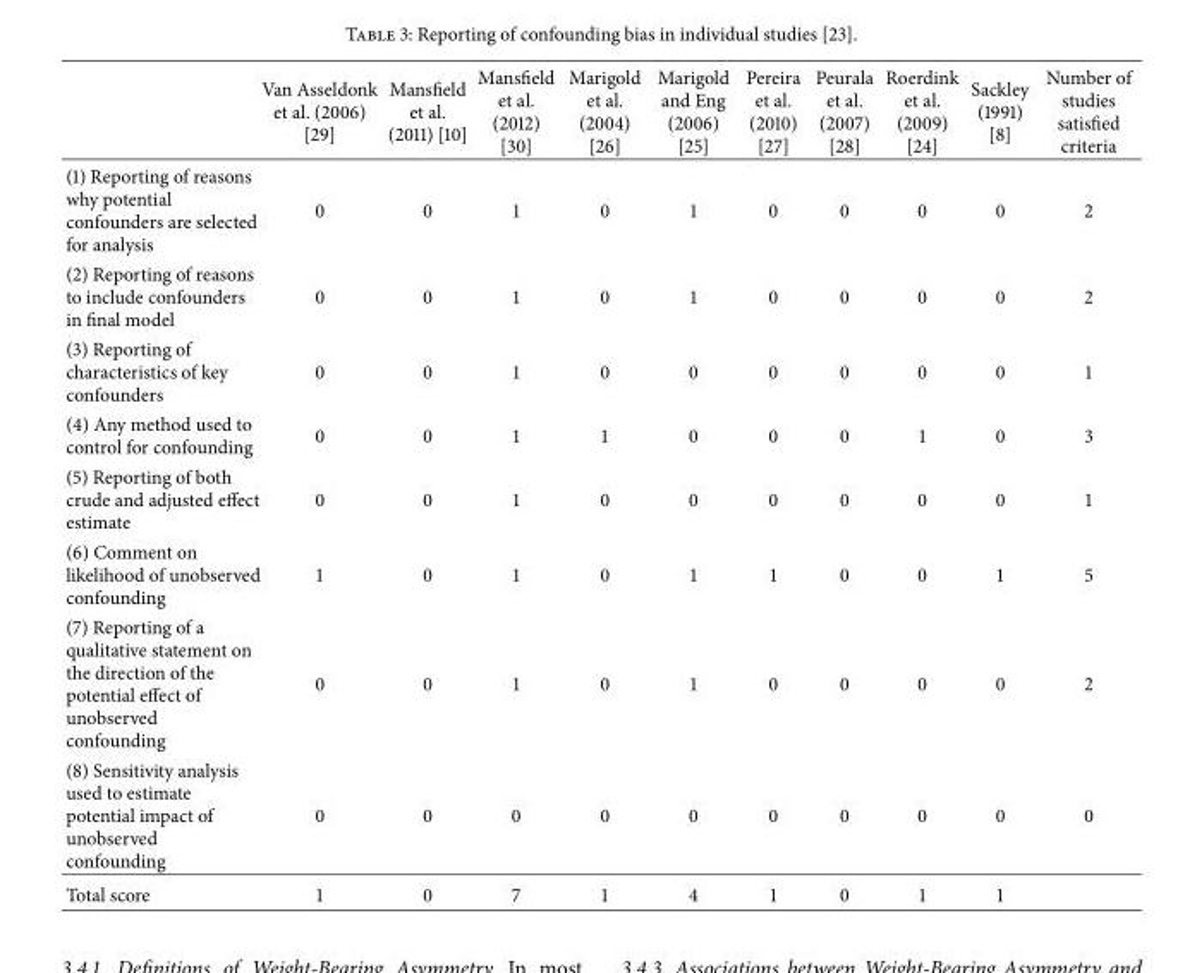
<table><thead><tr><td></td><td>Van Asseldonk et al. (2006) [29]</td><td>Mansfield et al. (2011) [10]</td><td>Mansfield et al. (2012) [30]</td><td>Marigold et al. (2004) [26]</td><td>Marigold and Eng (2006) [25]</td><td>Pereira et al. (2010) [27]</td><td>Peurala et al. (2007) [28]</td><td>Roerdink et al. (2009) [24]</td><td>Sackley (1991) [8]</td><td>Number of studies satisfied criteria</td></tr></thead><tbody><tr><td>(1) Reporting of reasons why potential confounders are selected for analysis</td><td>0</td><td>0</td><td>1</td><td>0</td><td>1</td><td>0</td><td>0</td><td>0</td><td>0</td><td>2</td></tr><tr><td>(2) Reporting of reasons to include confounders in final model</td><td>0</td><td>0</td><td>1</td><td>0</td><td>1</td><td>0</td><td>0</td><td>0</td><td>0</td><td>2</td></tr><tr><td>(3) Reporting of characteristics of key confounders</td><td>0</td><td>0</td><td>1</td><td>0</td><td>0</td><td>0</td><td>0</td><td>0</td><td>0</td><td>1</td></tr><tr><td>(4) Any method used to control for confounding</td><td>0</td><td>0</td><td>1</td><td>1</td><td>0</td><td>0</td><td>0</td><td>1</td><td>0</td><td>3</td></tr><tr><td>(5) Reporting of both crude and adjusted effect estimate</td><td>0</td><td>0</td><td>1</td><td>0</td><td>0</td><td>0</td><td>0</td><td>0</td><td>0</td><td>1</td></tr><tr><td>(6) Comment on likelihood of unobserved confounding</td><td>1</td><td>0</td><td>1</td><td>0</td><td>1</td><td>1</td><td>0</td><td>0</td><td>1</td><td>5</td></tr><tr><td>(7) Reporting of a qualitative statement on the direction of the potential effect of unobserved confounding</td><td>0</td><td>0</td><td>1</td><td>0</td><td>1</td><td>0</td><td>0</td><td>0</td><td>0</td><td>2</td></tr><tr><td>(8) Sensitivity analysis used to estimate potential impact of unobserved confounding</td><td>0</td><td>0</td><td>0</td><td>0</td><td>0</td><td>0</td><td>0</td><td>0</td><td>0</td><td>0</td></tr><tr><td>Total score</td><td>1</td><td>0</td><td>7</td><td>1</td><td>4</td><td>1</td><td>0</td><td>1</td><td>1</td><td></td></tr></tbody></table>